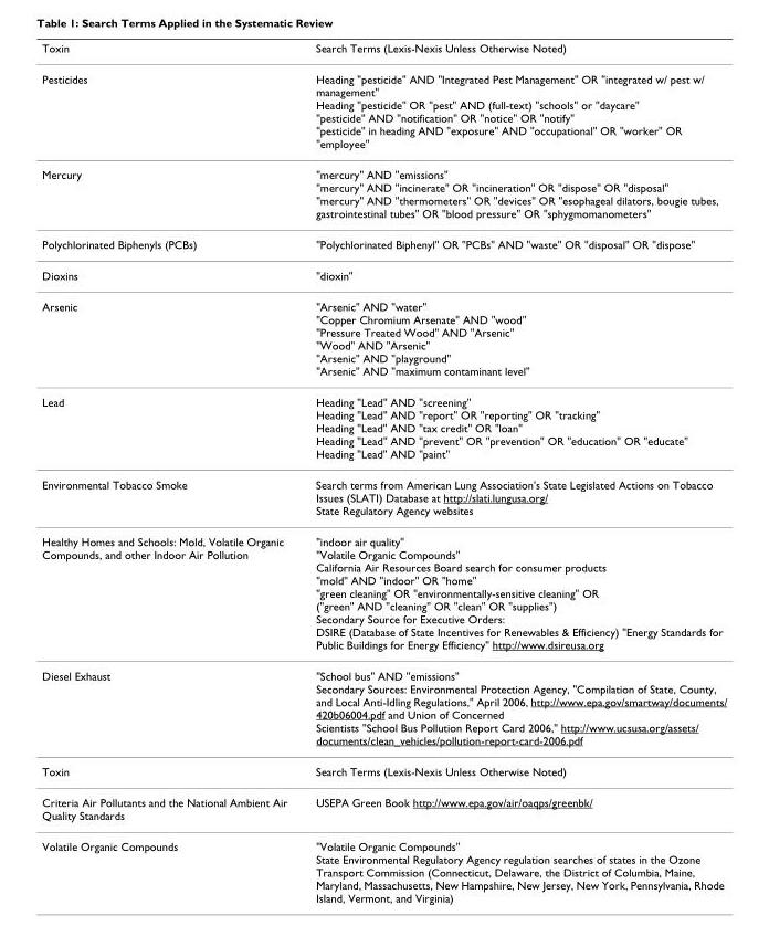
<table><thead><tr><td>Toxin</td><td>Search Terms (Lexis-Nexis Unless Otherwise Noted)</td></tr></thead><tbody><tr><td>Pesticides</td><td>Heading &quot;pesticide&quot; AND &quot;Integrated Pest Management&quot; OR &quot;integrated w/ pest w/ management&quot; Heading &quot;pesticide&quot; OR &quot;pest&quot; AND (full-text) &quot;schools&quot; or &quot;daycare&quot; &quot;pesticide&quot; AND &quot;notification&quot; OR &quot;notice&quot; OR &quot;notify&quot; &quot;pesticide&quot; in heading AND &quot;exposure&quot; AND &quot;occupational&quot; OR &quot;worker&quot; OR &quot;employee&quot;</td></tr><tr><td>Mercury</td><td>&quot;mercury&quot; AND &quot;emissions&quot; &quot;mercury&quot; AND &quot;incinerate&quot; OR &quot;incineration&quot; OR &quot;dispose&quot; OR &quot;disposal&quot; &quot;mercury&quot; AND &quot;thermometers&quot; OR &quot;devices&quot; OR &quot;esophageal dilators, bougie tubes, gastrointestinal tubes&quot; OR &quot;blood pressure&quot; OR &quot;sphygmomanometers&quot;</td></tr><tr><td>Polychlorinated Biphenyls (PCBs)</td><td>&quot;Polychlorinated Biphenyl&quot; OR &quot;PCBs&quot; AND &quot;waste&quot; OR &quot;disposal&quot; OR &quot;dispose&quot;</td></tr><tr><td>Dioxins</td><td>&quot;dioxin&quot;</td></tr><tr><td>Arsenic</td><td>&quot;Arsenic&quot; AND &quot;water&quot; &quot;Copper Chromium Arsenate&quot; AND &quot;wood&quot; &quot;Pressure Treated Wood&quot; AND &quot;Arsenic&quot; &quot;Wood&quot; AND &quot;Arsenic&quot; &quot;Arsenic&quot; AND &quot;playground&quot; &quot;Arsenic&quot; AND &quot;maximum contaminant level&quot;</td></tr><tr><td>Lead</td><td>Heading &quot;Lead&quot; AND &quot;screening&quot; Heading &quot;Lead&quot; AND &quot;report&quot; OR &quot;reporting&quot; OR &quot;tracking&quot; Heading &quot;Lead&quot; AND &quot;tax credit&quot; OR &quot;loan&quot; Heading &quot;Lead&quot; AND &quot;prevent&quot; OR &quot;prevention&quot; OR &quot;education&quot; OR &quot;educate&quot; Heading &quot;Lead&quot; AND &quot;paint&quot;</td></tr><tr><td>Environmental Tobacco Smoke</td><td>Search terms from American Lung Association&#x27;s State Legislated Actions on Tobacco Issues (SLATI) Database at http://slati.lungusa.org/ State Regulatory Agency websites</td></tr><tr><td>Healthy Homes and Schools: Mold, Volatile Organic Compounds, and other Indoor Air Pollution</td><td>&quot;indoor air quality&quot; &quot;Volatile Organic Compounds&quot; California Air Resources Board search for consumer products &quot;mold&quot; AND &quot;indoor&quot; OR &quot;home&quot; &quot;green cleaning&quot; OR &quot;environmentally-sensitive cleaning&quot; OR (&quot;green&quot; AND &quot;cleaning&quot; OR &quot;clean&quot; OR &quot;supplies&quot;) Secondary Source for Executive Orders: DSIRE (Database of State Incentives for Renewables &amp; Efficiency) &quot;Energy Standards for Public Buildings for Energy Efficiency&quot; http://www.dsireusa.org</td></tr><tr><td>Diesel Exhaust</td><td>&quot;School bus&quot; AND &quot;emissions&quot; Secondary Sources: Environmental Protection Agency, &quot;Compilation of State, County, and Local Anti-Idling Regulations,&quot; April 2006, http://www.epa.gov/smartway/documents/ 420b06004.pdf and Union of Concerned Scientists &quot;School Bus Pollution Report Card 2006,&quot; http://www.ucsusa.org/assets/ documents/clean_vehicles/pollution-report-card-2006.pdf</td></tr><tr><td>Toxin</td><td>Search Terms (Lexis-Nexis Unless Otherwise Noted)</td></tr><tr><td>Criteria Air Pollutants and the National Ambient Air Quality Standards</td><td>USEPA Green Book http://www.epa.gov/air/oaqps/greenbk/</td></tr><tr><td>Volatile Organic Compounds</td><td>&quot;Volatile Organic Compounds&quot; State Environmental Regulatory Agency regulation searches of states in the Ozone Transport Commission (Connecticut, Delaware, the District of Columbia, Maine, Maryland, Massachusetts, New Hampshire, New Jersey, New York, Pennsylvania, Rhode Island, Vermont, and Virginia)</td></tr></tbody></table>